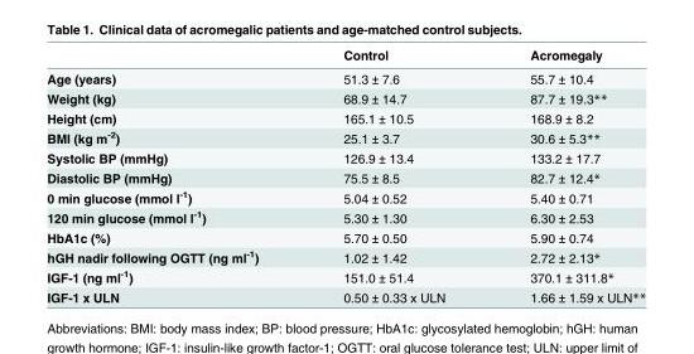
<table><thead><tr><td></td><td>Control</td><td>Acromegaly</td></tr></thead><tbody><tr><td>Age (years)</td><td>51.3 ± 7.6</td><td>55.7 ± 10.4</td></tr><tr><td>Weight (kg)</td><td>68.9 ± 14.7</td><td>87.7 ± 19.3**</td></tr><tr><td>Height (cm)</td><td>165.1 ± 10.5</td><td>168.9 ± 8.2</td></tr><tr><td>BMI (kg m<sup>-2</sup>)</td><td>25.1 ± 3.7</td><td>30.6 ± 5.3**</td></tr><tr><td>Systolic BP (mmHg)</td><td>126.9 ± 13.4</td><td>133.2 ± 17.7</td></tr><tr><td>Diastolic BP (mmHg)</td><td>75.5 ± 8.5</td><td>82.7 ± 12.4*</td></tr><tr><td>0 min glucose (mmol l<sup>-1</sup>)</td><td>5.04 ± 0.52</td><td>5.40 ± 0.71</td></tr><tr><td>120 min glucose (mmol l<sup>-1</sup>)</td><td>5.30 ± 1.30</td><td>6.30 ± 2.53</td></tr><tr><td>HbA1c (%)</td><td>5.70 ± 0.50</td><td>5.90 ± 0.74</td></tr><tr><td>hGH nadir following OGTT (ng ml<sup>-1</sup>)</td><td>1.02 ± 1.42</td><td>2.72 ± 2.13*</td></tr><tr><td>IGF-1 (ng ml<sup>-1</sup>)</td><td>151.0 ± 51.4</td><td>370.1 ± 311.8*</td></tr><tr><td>IGF-1 x ULN</td><td>0.50 ± 0.33 x ULN</td><td>1.66 ± 1.59 x ULN**</td></tr></tbody></table>